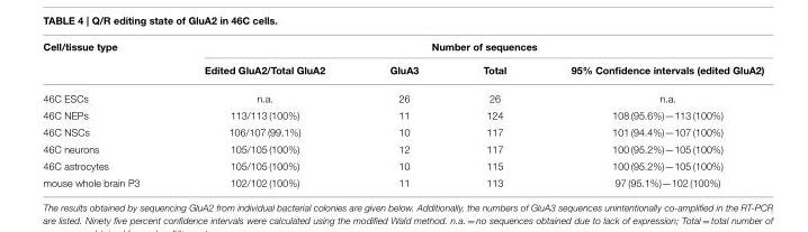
<table><thead><tr><td rowspan="2">Cell/tissue type</td><td colspan="4">Number of sequences</td></tr><tr><td>Edited GluA2/Total GluA2</td><td>GluA3</td><td>Total</td><td>95% Confidence intervals (edited GluA2)</td></tr></thead><tbody><tr><td>46C ESCs</td><td>n.a.</td><td>26</td><td>26</td><td>n.a.</td></tr><tr><td>46C NEPs</td><td>113/113 (100%)</td><td>11</td><td>124</td><td>108 (95.6%)—113 (100%)</td></tr><tr><td>46C NSCs</td><td>106/107 (99.1%)</td><td>10</td><td>117</td><td>101 (94.4%)—107 (100%)</td></tr><tr><td>46C neurons</td><td>105/105 (100%)</td><td>12</td><td>117</td><td>100 (95.2%)—105 (100%)</td></tr><tr><td>46C astrocytes</td><td>105/105 (100%)</td><td>10</td><td>115</td><td>100 (95.2%)—105 (100%)</td></tr><tr><td>mouse whole brain P3</td><td>102/102 (100%)</td><td>11</td><td>113</td><td>97 (95.1%)—102 (100%)</td></tr></tbody></table>